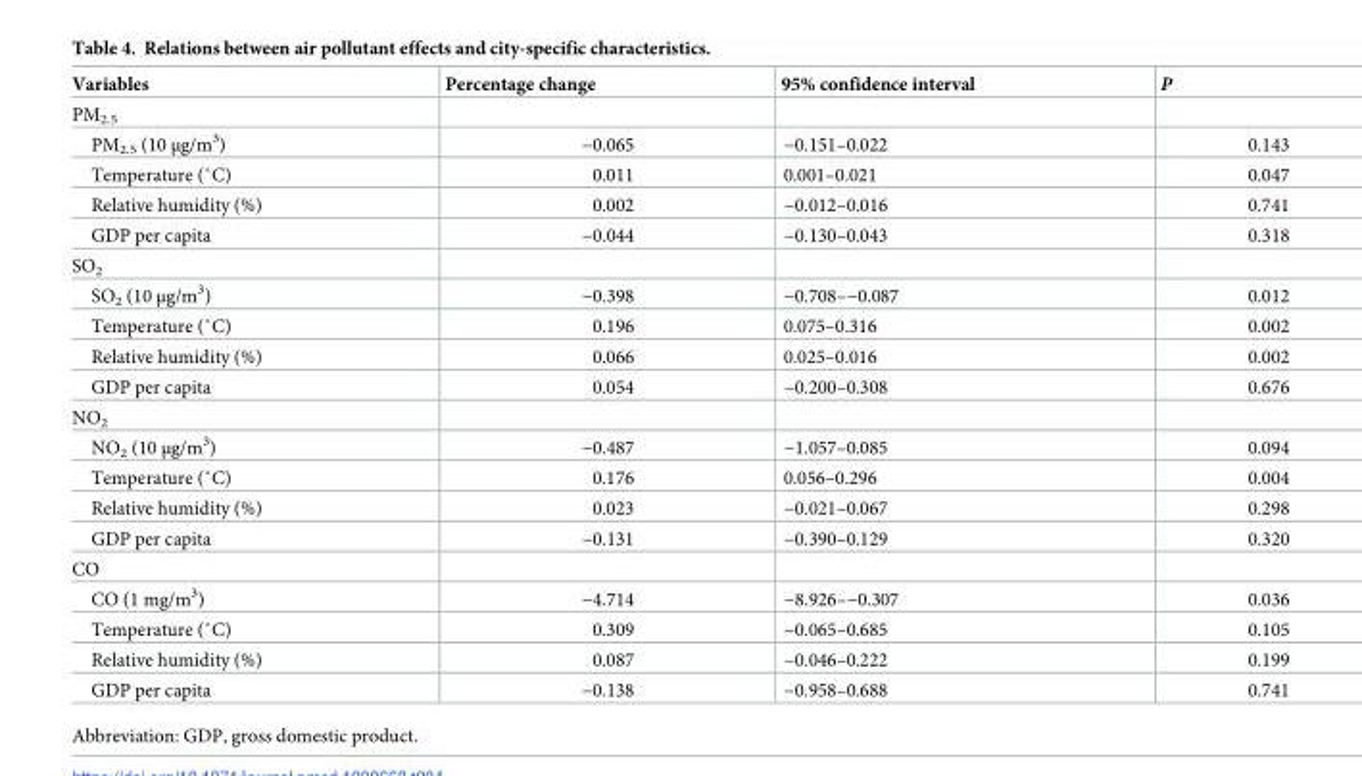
<table><thead><tr><td>Variables</td><td>Percentage change</td><td>95% confidence interval</td><td>P</td></tr></thead><tbody><tr><td colspan="4">PM<sub>2.5</sub></td></tr><tr><td>PM<sub>2.5</sub> (10 μg/m<sup>3</sup>)</td><td>−0.065</td><td>−0.151–0.022</td><td>0.143</td></tr><tr><td>Temperature (˚C)</td><td>0.011</td><td>0.001–0.021</td><td>0.047</td></tr><tr><td>Relative humidity (%)</td><td>0.002</td><td>−0.012–0.016</td><td>0.741</td></tr><tr><td>GDP per capita</td><td>−0.044</td><td>−0.130–0.043</td><td>0.318</td></tr><tr><td colspan="4">SO<sub>2</sub></td></tr><tr><td>SO<sub>2</sub> (10 μg/m<sup>3</sup>)</td><td>−0.398</td><td>−0.708–−0.087</td><td>0.012</td></tr><tr><td>Temperature (˚C)</td><td>0.196</td><td>0.075–0.316</td><td>0.002</td></tr><tr><td>Relative humidity (%)</td><td>0.066</td><td>0.025–0.016</td><td>0.002</td></tr><tr><td>GDP per capita</td><td>0.054</td><td>−0.200–0.308</td><td>0.676</td></tr><tr><td colspan="4">NO<sub>2</sub></td></tr><tr><td>NO<sub>2</sub> (10 μg/m<sup>3</sup>)</td><td>−0.487</td><td>−1.057–0.085</td><td>0.094</td></tr><tr><td>Temperature (˚C)</td><td>0.176</td><td>0.056–0.296</td><td>0.004</td></tr><tr><td>Relative humidity (%)</td><td>0.023</td><td>−0.021–0.067</td><td>0.298</td></tr><tr><td>GDP per capita</td><td>−0.131</td><td>−0.390–0.129</td><td>0.320</td></tr><tr><td colspan="4">CO</td></tr><tr><td>CO (1 mg/m<sup>3</sup>)</td><td>−4.714</td><td>−8.926–−0.307</td><td>0.036</td></tr><tr><td>Temperature (˚C)</td><td>0.309</td><td>−0.065–0.685</td><td>0.105</td></tr><tr><td>Relative humidity (%)</td><td>0.087</td><td>−0.046–0.222</td><td>0.199</td></tr><tr><td>GDP per capita</td><td>−0.138</td><td>−0.958–0.688</td><td>0.741</td></tr></tbody></table>